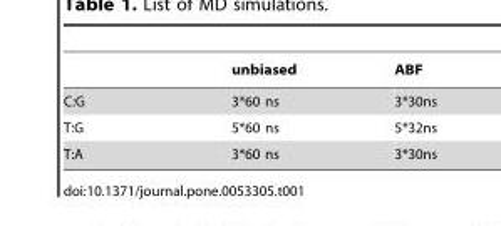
<table><thead><tr><td></td><td>unbiased</td><td>ABF</td></tr></thead><tbody><tr><td>C:G</td><td>3*60 ns</td><td>3*30ns</td></tr><tr><td>T:G</td><td>5*60 ns</td><td>5*32ns</td></tr><tr><td>T:A</td><td>3*60 ns</td><td>3*30ns</td></tr></tbody></table>